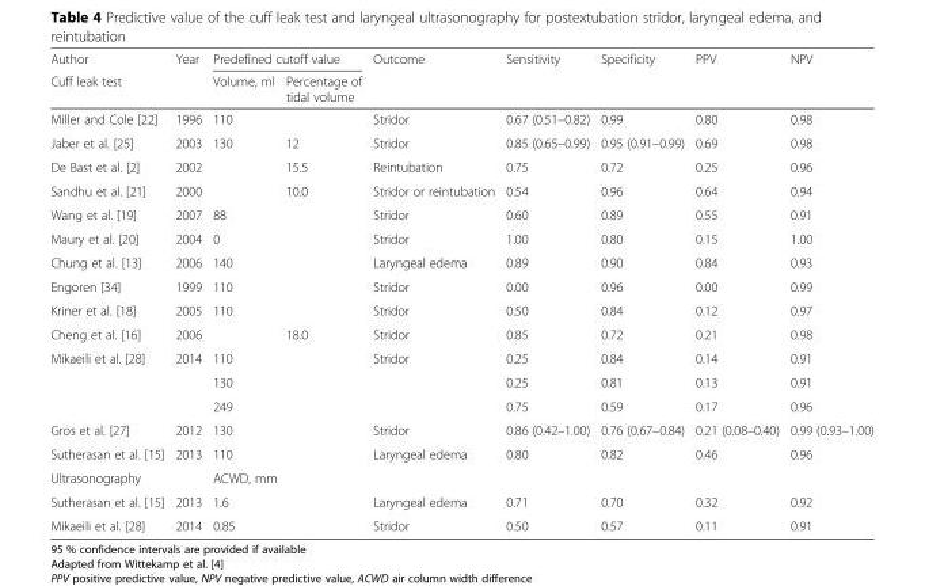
<table><thead><tr><td rowspan="2">Author Cuff leak test</td><td rowspan="2">Year</td><td colspan="2">Predefined cutoff value</td><td rowspan="2">Outcome</td><td rowspan="2">Sensitivity</td><td rowspan="2">Specificity</td><td rowspan="2">PPV</td><td rowspan="2">NPV</td></tr><tr><td>Volume, ml</td><td>Percentage of tidal volume</td></tr></thead><tbody><tr><td>Miller and Cole [22]</td><td>1996</td><td>110</td><td></td><td>Stridor</td><td>0.67 (0.51–0.82)</td><td>0.99</td><td>0.80</td><td>0.98</td></tr><tr><td>Jaber et al. [25]</td><td>2003</td><td>130</td><td>12</td><td>Stridor</td><td>0.85 (0.65–0.99)</td><td>0.95 (0.91–0.99)</td><td>0.69</td><td>0.98</td></tr><tr><td>De Bast et al. [2]</td><td>2002</td><td></td><td>15.5</td><td>Reintubation</td><td>0.75</td><td>0.72</td><td>0.25</td><td>0.96</td></tr><tr><td>Sandhu et al. [21]</td><td>2000</td><td></td><td>10.0</td><td>Stridor or reintubation</td><td>0.54</td><td>0.96</td><td>0.64</td><td>0.94</td></tr><tr><td>Wang et al. [19]</td><td>2007</td><td>88</td><td></td><td>Stridor</td><td>0.60</td><td>0.89</td><td>0.55</td><td>0.91</td></tr><tr><td>Maury et al. [20]</td><td>2004</td><td>0</td><td></td><td>Stridor</td><td>1.00</td><td>0.80</td><td>0.15</td><td>1.00</td></tr><tr><td>Chung et al. [13]</td><td>2006</td><td>140</td><td></td><td>Laryngeal edema</td><td>0.89</td><td>0.90</td><td>0.84</td><td>0.93</td></tr><tr><td>Engoren [34]</td><td>1999</td><td>110</td><td></td><td>Stridor</td><td>0.00</td><td>0.96</td><td>0.00</td><td>0.99</td></tr><tr><td>Kriner et al. [18]</td><td>2005</td><td>110</td><td></td><td>Stridor</td><td>0.50</td><td>0.84</td><td>0.12</td><td>0.97</td></tr><tr><td>Cheng et al. [16]</td><td>2006</td><td></td><td>18.0</td><td>Stridor</td><td>0.85</td><td>0.72</td><td>0.21</td><td>0.98</td></tr><tr><td rowspan="3">Mikaeili et al. [28]</td><td rowspan="3">2014</td><td>110</td><td rowspan="3"></td><td rowspan="3">Stridor</td><td>0.25</td><td>0.84</td><td>0.14</td><td>0.91</td></tr><tr><td>130</td><td>0.25</td><td>0.81</td><td>0.13</td><td>0.91</td></tr><tr><td>249</td><td>0.75</td><td>0.59</td><td>0.17</td><td>0.96</td></tr><tr><td>Gros et al. [27]</td><td>2012</td><td>130</td><td></td><td>Stridor</td><td>0.86 (0.42–1.00)</td><td>0.76 (0.67–0.84)</td><td>0.21 (0.08–0.40)</td><td>0.99 (0.93–1.00)</td></tr><tr><td>Sutherasan et al. [15]</td><td>2013</td><td>110</td><td></td><td>Laryngeal edema</td><td>0.80</td><td>0.82</td><td>0.46</td><td>0.96</td></tr><tr><td>Ultrasonography</td><td></td><td colspan="2">ACWD, mm</td><td></td><td></td><td></td><td></td><td></td></tr><tr><td>Sutherasan et al. [15]</td><td>2013</td><td colspan="2">1.6</td><td>Laryngeal edema</td><td>0.71</td><td>0.70</td><td>0.32</td><td>0.92</td></tr><tr><td>Mikaeili et al. [28]</td><td>2014</td><td colspan="2">0.85</td><td>Stridor</td><td>0.50</td><td>0.57</td><td>0.11</td><td>0.91</td></tr></tbody></table>